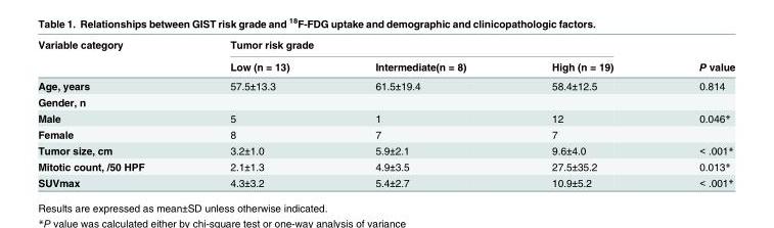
<table><thead><tr><td rowspan="2">Variable category</td><td colspan="3">Tumor risk grade</td><td rowspan="2">P value</td></tr><tr><td>Low (n = 13)</td><td>Intermediate(n = 8)</td><td>High (n = 19)</td></tr></thead><tbody><tr><td>Age, years</td><td>57.5±13.3</td><td>61.5±19.4</td><td>58.4±12.5</td><td>0.814</td></tr><tr><td colspan="5">Gender, n</td></tr><tr><td>Male</td><td>5</td><td>1</td><td>12</td><td>0.046*</td></tr><tr><td>Female</td><td>8</td><td>7</td><td>7</td><td></td></tr><tr><td>Tumor size, cm</td><td>3.2±1.0</td><td>5.9±2.1</td><td>9.6±4.0</td><td>&lt; .001*</td></tr><tr><td>Mitotic count, /50 HPF</td><td>2.1±1.3</td><td>4.9±3.5</td><td>27.5±35.2</td><td>0.013*</td></tr><tr><td>SUVmax</td><td>4.3±3.2</td><td>5.4±2.7</td><td>10.9±5.2</td><td>&lt; .001*</td></tr></tbody></table>